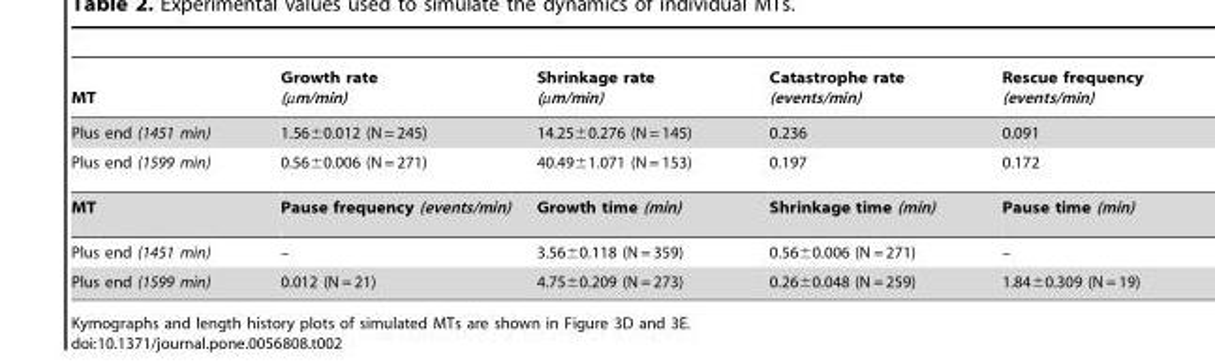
<table><thead><tr><td>MT</td><td>Growth rate (µm/min)</td><td>Shrinkage rate (µm/min)</td><td>Catastrophe rate (events/min)</td><td>Rescue frequency (events/min)</td></tr></thead><tbody><tr><td>Plus end (1451 min)</td><td>1.56±0.012 (N = 245)</td><td>14.25±0.276 (N = 145)</td><td>0.236</td><td>0.091</td></tr><tr><td>Plus end (1599 min)</td><td>0.56±0.006 (N = 271)</td><td>40.49±1.071 (N = 153)</td><td>0.197</td><td>0.172</td></tr><tr><td>MT</td><td>Pause frequency (events/min)</td><td>Growth time (min)</td><td>Shrinkage time (min)</td><td>Pause time (min)</td></tr><tr><td>Plus end (1451 min)</td><td>–</td><td>3.56±0.118 (N = 359)</td><td>0.56±0.006 (N = 271)</td><td>–</td></tr><tr><td>Plus end (1599 min)</td><td>0.012 (N = 21)</td><td>4.75±0.209 (N = 273)</td><td>0.26±0.048 (N = 259)</td><td>1.84±0.309 (N = 19)</td></tr></tbody></table>